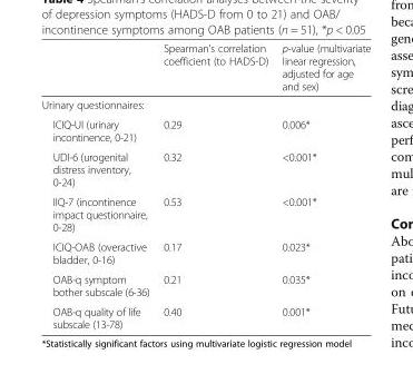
<table><thead><tr><td></td><td>Spearman’s correlation coefficient (to HADS-D)</td><td>p-value (multivariate linear regression, adjusted for age and sex)</td></tr></thead><tbody><tr><td colspan="3">Urinary questionnaires:</td></tr><tr><td>ICIQ-UI (urinary incontinence, 0-21)</td><td>0.29</td><td>0.006*</td></tr><tr><td>UDI-6 (urogenital distress inventory, 0-24)</td><td>0.32</td><td>&lt;0.001*</td></tr><tr><td>IIQ-7 (incontinence impact questionnaire, 0-28)</td><td>0.53</td><td>&lt;0.001*</td></tr><tr><td>ICIQ-OAB (overactive bladder, 0-16)</td><td>0.17</td><td>0.023*</td></tr><tr><td>OAB-q symptom bother subscale (6-36)</td><td>0.21</td><td>0.035*</td></tr><tr><td>OAB-q quality of life subscale (13-78)</td><td>0.40</td><td>0.001*</td></tr></tbody></table>